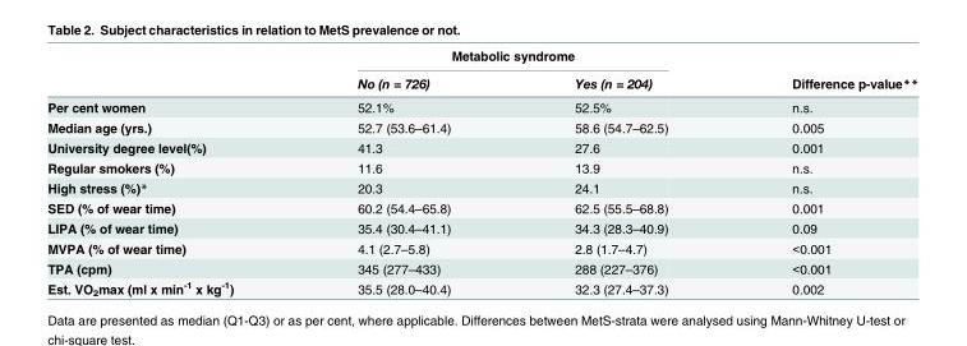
<table><thead><tr><td rowspan="2"></td><td colspan="2">Metabolic syndrome</td><td rowspan="2">Difference p-value**</td></tr><tr><td>No (n = 726)</td><td>Yes (n = 204)</td></tr></thead><tbody><tr><td>Per cent women</td><td>52.1%</td><td>52.5%</td><td>n.s.</td></tr><tr><td>Median age (yrs.)</td><td>52.7 (53.6–61.4)</td><td>58.6 (54.7–62.5)</td><td>0.005</td></tr><tr><td>University degree level(%)</td><td>41.3</td><td>27.6</td><td>0.001</td></tr><tr><td>Regular smokers (%)</td><td>11.6</td><td>13.9</td><td>n.s.</td></tr><tr><td>High stress (%)*</td><td>20.3</td><td>24.1</td><td>n.s.</td></tr><tr><td>SED (% of wear time)</td><td>60.2 (54.4–65.8)</td><td>62.5 (55.5–68.8)</td><td>0.001</td></tr><tr><td>LIPA (% of wear time)</td><td>35.4 (30.4–41.1)</td><td>34.3 (28.3–40.9)</td><td>0.09</td></tr><tr><td>MVPA (% of wear time)</td><td>4.1 (2.7–5.8)</td><td>2.8 (1.7–4.7)</td><td>&lt;0.001</td></tr><tr><td>TPA (cpm)</td><td>345 (277–433)</td><td>288 (227–376)</td><td>&lt;0.001</td></tr><tr><td>Est. VO<sub>2</sub>max (ml x min<sup>-1</sup> x kg<sup>-1</sup>)</td><td>35.5 (28.0–40.4)</td><td>32.3 (27.4–37.3)</td><td>0.002</td></tr></tbody></table>